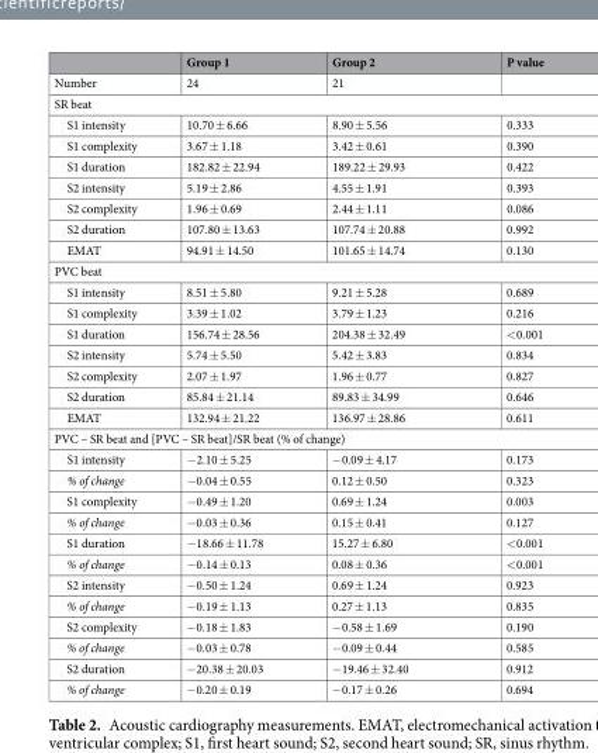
<table><thead><tr><td></td><td>Group 1</td><td>Group 2</td><td>P value</td></tr></thead><tbody><tr><td>Number</td><td>24</td><td>21</td><td></td></tr><tr><td colspan="4">SR beat</td></tr><tr><td>S1 intensity</td><td>10.70 ± 6.66</td><td>8.90 ± 5.56</td><td>0.333</td></tr><tr><td>S1 complexity</td><td>3.67 ± 1.18</td><td>3.42 ± 0.61</td><td>0.390</td></tr><tr><td>S1 duration</td><td>182.82 ± 22.94</td><td>189.22 ± 29.93</td><td>0.422</td></tr><tr><td>S2 intensity</td><td>5.19 ± 2.86</td><td>4.55 ± 1.91</td><td>0.393</td></tr><tr><td>S2 complexity</td><td>1.96 ± 0.69</td><td>2.44 ± 1.11</td><td>0.086</td></tr><tr><td>S2 duration</td><td>107.80 ± 13.63</td><td>107.74 ± 20.88</td><td>0.992</td></tr><tr><td>EMAT</td><td>94.91 ± 14.50</td><td>101.65 ± 14.74</td><td>0.130</td></tr><tr><td colspan="4">PVC beat</td></tr><tr><td>S1 intensity</td><td>8.51 ± 5.80</td><td>9.21 ± 5.28</td><td>0.689</td></tr><tr><td>S1 complexity</td><td>3.39 ± 1.02</td><td>3.79 ± 1.23</td><td>0.216</td></tr><tr><td>S1 duration</td><td>156.74 ± 28.56</td><td>204.38 ± 32.49</td><td>&lt;0.001</td></tr><tr><td>S2 intensity</td><td>5.74 ± 5.50</td><td>5.42 ± 3.83</td><td>0.834</td></tr><tr><td>S2 complexity</td><td>2.07 ± 1.97</td><td>1.96 ± 0.77</td><td>0.827</td></tr><tr><td>S2 duration</td><td>85.84 ± 21.14</td><td>89.83 ± 34.99</td><td>0.646</td></tr><tr><td>EMAT</td><td>132.94 ± 21.22</td><td>136.97 ± 28.86</td><td>0.611</td></tr><tr><td colspan="4">PVC – SR beat and [PVC – SR beat]/SR beat (% of change)</td></tr><tr><td>S1 intensity</td><td>−2.10 ± 5.25</td><td>−0.09 ± 4.17</td><td>0.173</td></tr><tr><td>% of change</td><td>−0.04 ± 0.55</td><td>0.12 ± 0.50</td><td>0.323</td></tr><tr><td>S1 complexity</td><td>−0.49 ± 1.20</td><td>0.69 ± 1.24</td><td>0.003</td></tr><tr><td>% of change</td><td>−0.03 ± 0.36</td><td>0.15 ± 0.41</td><td>0.127</td></tr><tr><td>S1 duration</td><td>−18.66 ± 11.78</td><td>15.27 ± 6.80</td><td>&lt;0.001</td></tr><tr><td>% of change</td><td>−0.14 ± 0.13</td><td>0.08 ± 0.36</td><td>&lt;0.001</td></tr><tr><td>S2 intensity</td><td>−0.50 ± 1.24</td><td>0.69 ± 1.24</td><td>0.923</td></tr><tr><td>% of change</td><td>−0.19 ± 1.13</td><td>0.27 ± 1.13</td><td>0.835</td></tr><tr><td>S2 complexity</td><td>−0.18 ± 1.83</td><td>−0.58 ± 1.69</td><td>0.190</td></tr><tr><td>% of change</td><td>−0.03 ± 0.78</td><td>−0.09 ± 0.44</td><td>0.585</td></tr><tr><td>S2 duration</td><td>−20.38 ± 20.03</td><td>−19.46 ± 32.40</td><td>0.912</td></tr><tr><td>% of change</td><td>−0.20 ± 0.19</td><td>−0.17 ± 0.26</td><td>0.694</td></tr></tbody></table>